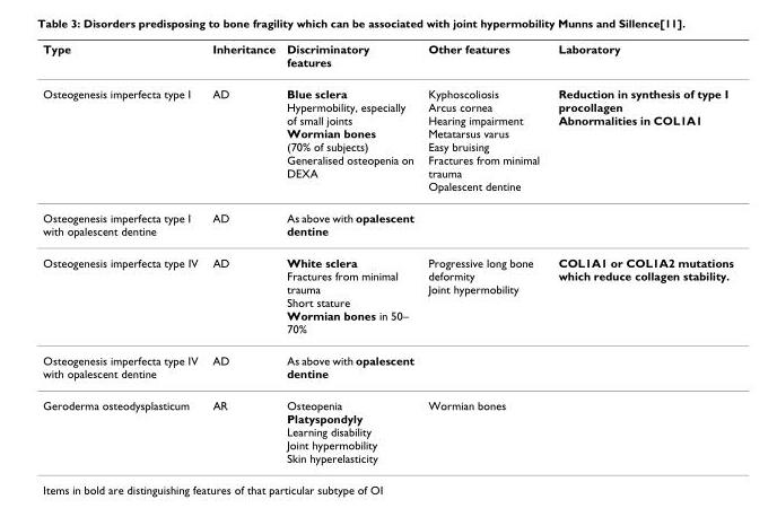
<table><thead><tr><td>Type</td><td>Inheritance</td><td>Discriminatory features</td><td>Other features</td><td>Laboratory</td></tr></thead><tbody><tr><td>Osteogenesis imperfecta type I</td><td>AD</td><td>Blue sclera Hypermobility, especially of small joints Wormian bones (70% of subjects) Generalised osteopenia on DEXA</td><td>Kyphoscoliosis Arcus cornea Hearing impairment Metatarsus varus Easy bruising Fractures from minimal trauma Opalescent dentine</td><td>Reduction in synthesis of type I procollagen Abnormalities in COL1A1</td></tr><tr><td>Osteogenesis imperfecta type I with opalescent dentine</td><td>AD</td><td>As above with opalescent dentine</td><td></td><td></td></tr><tr><td>Osteogenesis imperfecta type IV</td><td>AD</td><td>White sclera Fractures from minimal trauma Short stature Wormian bones in 50– 70%</td><td>Progressive long bone deformity Joint hypermobility</td><td>COL1A1 or COL1A2 mutations which reduce collagen stability.</td></tr><tr><td>Osteogenesis imperfecta type IV with opalescent dentine</td><td>AD</td><td>As above with opalescent dentine</td><td></td><td></td></tr><tr><td>Geroderma osteodysplasticum</td><td>AR</td><td>Osteopenia Platyspondyly Learning disability Joint hypermobility Skin hyperelasticity</td><td>Wormian bones</td><td></td></tr></tbody></table>